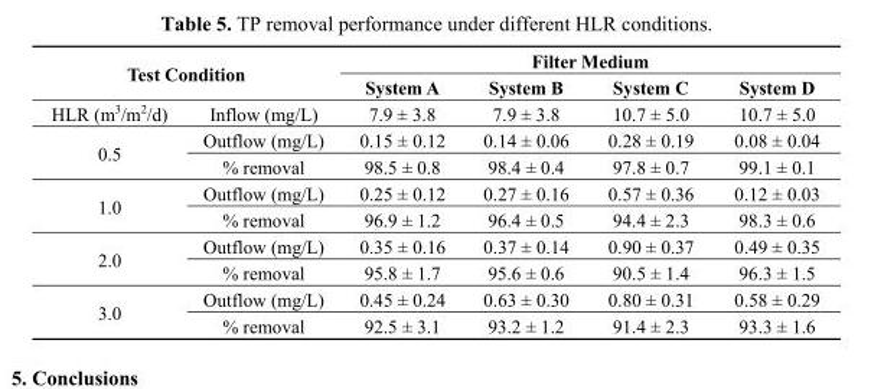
<table><thead><tr><td rowspan="2" colspan="2">Test Condition</td><td colspan="4">Filter Medium</td></tr><tr><td rowspan="2">System A 7.9 ± 3.8</td><td rowspan="2">System B 7.9 ± 3.8</td><td rowspan="2">System C 10.7 ± 5.0</td><td rowspan="2">System D 10.7 ± 5.0</td></tr><tr><td>HLR (m<sup>3</sup>/m<sup>2</sup>/d)</td><td>Inflow (mg/L)</td></tr></thead><tbody><tr><td rowspan="2">0.5</td><td>Outflow (mg/L)</td><td>0.15 ± 0.12</td><td>0.14 ± 0.06</td><td>0.28 ± 0.19</td><td>0.08 ± 0.04</td></tr><tr><td>% removal</td><td>98.5 ± 0.8</td><td>98.4 ± 0.4</td><td>97.8 ± 0.7</td><td>99.1 ± 0.1</td></tr><tr><td rowspan="2">1.0</td><td>Outflow (mg/L)</td><td>0.25 ± 0.12</td><td>0.27 ± 0.16</td><td>0.57 ± 0.36</td><td>0.12 ± 0.03</td></tr><tr><td>% removal</td><td>96.9 ± 1.2</td><td>96.4 ± 0.5</td><td>94.4 ± 2.3</td><td>98.3 ± 0.6</td></tr><tr><td rowspan="2">2.0</td><td>Outflow (mg/L)</td><td>0.35 ± 0.16</td><td>0.37 ± 0.14</td><td>0.90 ± 0.37</td><td>0.49 ± 0.35</td></tr><tr><td>% removal</td><td>95.8 ± 1.7</td><td>95.6 ± 0.6</td><td>90.5 ± 1.4</td><td>96.3 ± 1.5</td></tr><tr><td rowspan="2">3.0</td><td>Outflow (mg/L)</td><td>0.45 ± 0.24</td><td>0.63 ± 0.30</td><td>0.80 ± 0.31</td><td>0.58 ± 0.29</td></tr><tr><td>% removal</td><td>92.5 ± 3.1</td><td>93.2 ± 1.2</td><td>91.4 ± 2.3</td><td>93.3 ± 1.6</td></tr></tbody></table>